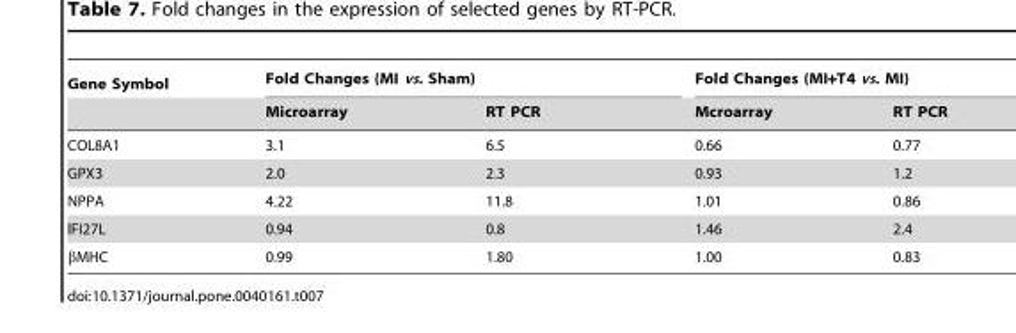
<table><thead><tr><td rowspan="2">Gene Symbol</td><td colspan="2">Fold Changes (MI vs. Sham)</td><td colspan="2">Fold Changes (MI+T4 vs. MI)</td></tr><tr><td>Microarray</td><td>RT PCR</td><td>Mcroarray</td><td>RT PCR</td></tr></thead><tbody><tr><td>COL8A1</td><td>3.1</td><td>6.5</td><td>0.66</td><td>0.77</td></tr><tr><td>GPX3</td><td>2.0</td><td>2.3</td><td>0.93</td><td>1.2</td></tr><tr><td>NPPA</td><td>4.22</td><td>11.8</td><td>1.01</td><td>0.86</td></tr><tr><td>lFI27L</td><td>0.94</td><td>0.8</td><td>1.46</td><td>2.4</td></tr><tr><td>βMHC</td><td>0.99</td><td>1.80</td><td>1.00</td><td>0.83</td></tr></tbody></table>